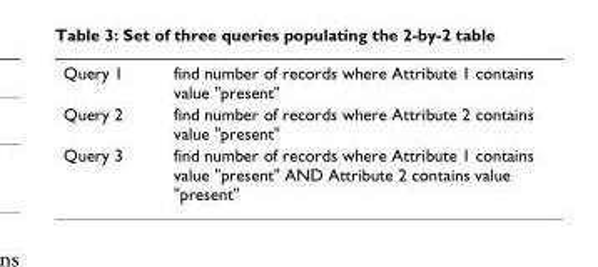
<table><tbody><tr><td>Query 1</td><td>find number of records where Attribute 1 contains value &quot;present&quot;</td></tr><tr><td>Query 2</td><td>find number of records where Attribute 2 contains value &quot;present&quot;</td></tr><tr><td>Query 3</td><td>find number of records where Attribute 1 contains value &quot;present&quot; AND Attribute 2 contains value &quot;present&quot;</td></tr></tbody></table>